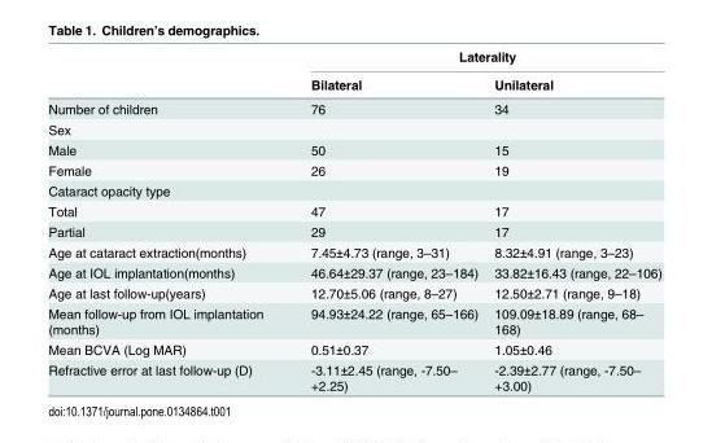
<table><thead><tr><td rowspan="2"></td><td colspan="2">Laterality</td></tr><tr><td>Bilateral</td><td>Unilateral</td></tr></thead><tbody><tr><td>Number of children</td><td>76</td><td>34</td></tr><tr><td colspan="3">Sex</td></tr><tr><td>Male</td><td>50</td><td>15</td></tr><tr><td>Female</td><td>26</td><td>19</td></tr><tr><td colspan="3">Cataract opacity type</td></tr><tr><td>Total</td><td>47</td><td>17</td></tr><tr><td>Partial</td><td>29</td><td>17</td></tr><tr><td>Age at cataract extraction(months)</td><td>7.45±4.73 (range, 3–31)</td><td>8.32±4.91 (range, 3–23)</td></tr><tr><td>Age at IOL implantation(months)</td><td>46.64±29.37 (range, 23–184)</td><td>33.82±16.43 (range, 22–106)</td></tr><tr><td>Age at last follow-up(years)</td><td>12.70±5.06 (range, 8–27)</td><td>12.50±2.71 (range, 9–18)</td></tr><tr><td>Mean follow-up from IOL implantation (months)</td><td>94.93±24.22 (range, 65–166)</td><td>109.09±18.89 (range, 68– 168)</td></tr><tr><td>Mean BCVA (Log MAR)</td><td>0.51±0.37</td><td>1.05±0.46</td></tr><tr><td>Refractive error at last follow-up (D)</td><td>-3.11±2.45 (range, -7.50– +2.25)</td><td>-2.39±2.77 (range, -7.50– +3.00)</td></tr></tbody></table>